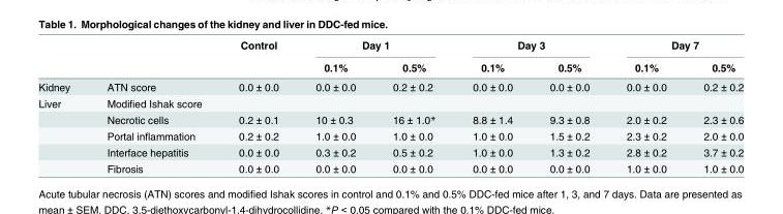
<table><thead><tr><td rowspan="2"></td><td rowspan="2"></td><td rowspan="2">Control</td><td colspan="2">Day 1</td><td colspan="2">Day 3</td><td colspan="2">Day 7</td></tr><tr><td>0.1%</td><td>0.5%</td><td>0.1%</td><td>0.5%</td><td>0.1%</td><td>0.5%</td></tr></thead><tbody><tr><td>Kidney</td><td>ATN score</td><td>0.0 ± 0.0</td><td>0.0 ± 0.0</td><td>0.2 ± 0.2</td><td>0.0 ± 0.0</td><td>0.0 ± 0.0</td><td>0.0 ± 0.0</td><td>0.2 ± 0.2</td></tr><tr><td rowspan="5">Liver</td><td>Modified Ishak score</td><td></td><td></td><td></td><td></td><td></td><td></td><td></td></tr><tr><td>Necrotic cells</td><td>0.2 ± 0.1</td><td>10 ± 0.3</td><td>16 ± 1.0*</td><td>8.8 ± 1.4</td><td>9.3 ± 0.8</td><td>2.0 ± 0.2</td><td>2.3 ± 0.6</td></tr><tr><td>Portal inflammation</td><td>0.2 ± 0.2</td><td>1.0 ± 0.0</td><td>1.0 ± 0.0</td><td>1.0 ± 0.0</td><td>1.5 ± 0.2</td><td>2.3 ± 0.2</td><td>2.0 ± 0.0</td></tr><tr><td>Interface hepatitis</td><td>0.0 ± 0.0</td><td>0.3 ± 0.2</td><td>0.5 ± 0.2</td><td>1.0 ± 0.0</td><td>1.3 ± 0.2</td><td>2.8 ± 0.2</td><td>3.7 ± 0.2</td></tr><tr><td>Fibrosis</td><td>0.0 ± 0.0</td><td>0.0 ± 0.0</td><td>0.0 ± 0.0</td><td>0.0 ± 0.0</td><td>0.0 ± 0.0</td><td>1.0 ± 0.0</td><td>1.0 ± 0.0</td></tr></tbody></table>